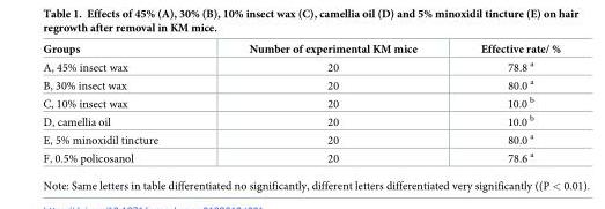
<table><thead><tr><td>Groups</td><td>Number of experimental KM mice</td><td>Effective rate/ %</td></tr></thead><tbody><tr><td>A, 45% insect wax</td><td>20</td><td>78.8 <sup>a</sup></td></tr><tr><td>B, 30% insect wax</td><td>20</td><td>80.0 <sup>a</sup></td></tr><tr><td>C, 10% insect wax</td><td>20</td><td>10.0 <sup>b</sup></td></tr><tr><td>D, camellia oil</td><td>20</td><td>10.0 <sup>b</sup></td></tr><tr><td>E, 5% minoxidil tincture</td><td>20</td><td>80.0 <sup>a</sup></td></tr><tr><td>F, 0.5% policosanol</td><td>20</td><td>78.6 <sup>a</sup></td></tr></tbody></table>